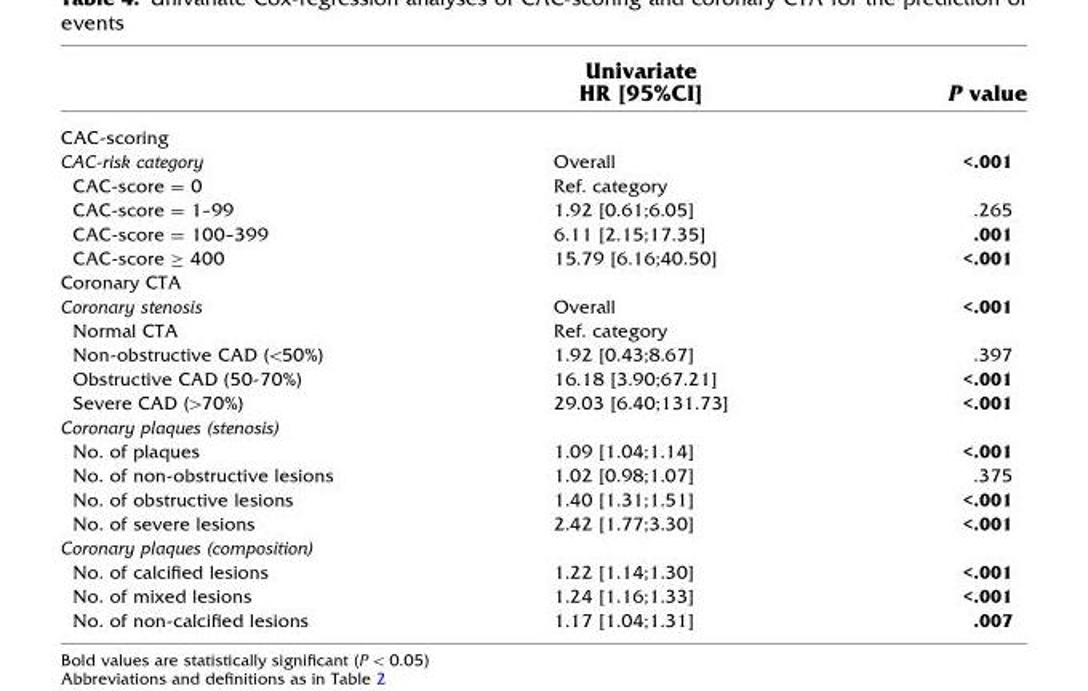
<table><thead><tr><td></td><td>Univariate HR [95%CI]</td><td>P value</td></tr></thead><tbody><tr><td colspan="3">CAC-scoring</td></tr><tr><td>CAC-risk category</td><td>Overall</td><td>&lt;.001</td></tr><tr><td>CAC-score = 0</td><td>Ref. category</td><td></td></tr><tr><td>CAC-score = 1–99</td><td>1.92 [0.61;6.05]</td><td>.265</td></tr><tr><td>CAC-score = 100–399</td><td>6.11 [2.15;17.35]</td><td>.001</td></tr><tr><td>CAC-score ≥ 400</td><td>15.79 [6.16;40.50]</td><td>&lt;.001</td></tr><tr><td colspan="3">Coronary CTA</td></tr><tr><td>Coronary stenosis</td><td>Overall</td><td>&lt;.001</td></tr><tr><td>Normal CTA</td><td>Ref. category</td><td></td></tr><tr><td>Non-obstructive CAD (&lt;50%)</td><td>1.92 [0.43;8.67]</td><td>.397</td></tr><tr><td>Obstructive CAD (50-70%)</td><td>16.18 [3.90;67.21]</td><td>&lt;.001</td></tr><tr><td>Severe CAD (&gt;70%)</td><td>29.03 [6.40;131.73]</td><td>&lt;.001</td></tr><tr><td colspan="3">Coronary plaques (stenosis)</td></tr><tr><td>No. of plaques</td><td>1.09 [1.04;1.14]</td><td>&lt;.001</td></tr><tr><td>No. of non-obstructive lesions</td><td>1.02 [0.98;1.07]</td><td>.375</td></tr><tr><td>No. of obstructive lesions</td><td>1.40 [1.31;1.51]</td><td>&lt;.001</td></tr><tr><td>No. of severe lesions</td><td>2.42 [1.77;3.30]</td><td>&lt;.001</td></tr><tr><td colspan="3">Coronary plaques (composition)</td></tr><tr><td>No. of calcified lesions</td><td>1.22 [1.14;1.30]</td><td>&lt;.001</td></tr><tr><td>No. of mixed lesions</td><td>1.24 [1.16;1.33]</td><td>&lt;.001</td></tr><tr><td>No. of non-calcified lesions</td><td>1.17 [1.04;1.31]</td><td>.007</td></tr></tbody></table>